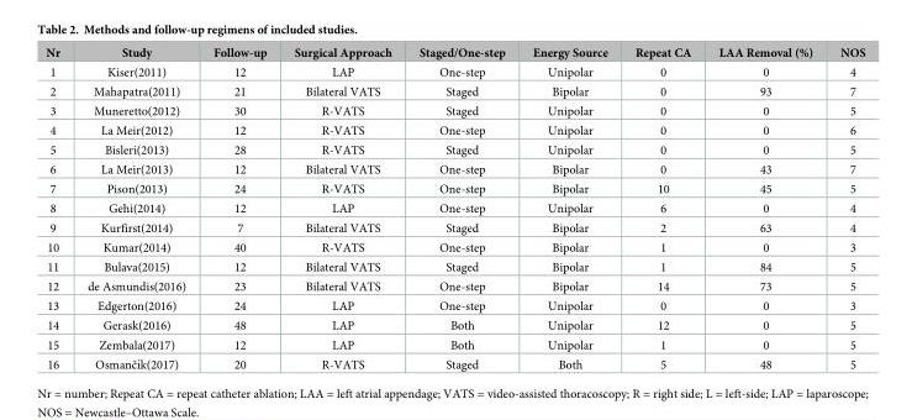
<table><thead><tr><td>Nr</td><td>Study</td><td>Follow-up</td><td>Surgical Approach</td><td>Staged/One-step</td><td>Energy Source</td><td>Repeat CA</td><td>LAA Removal (%)</td><td>NOS</td></tr></thead><tbody><tr><td>1</td><td>Kiser(2011)</td><td>12</td><td>LAP</td><td>One-step</td><td>Unipolar</td><td>0</td><td>0</td><td>4</td></tr><tr><td>2</td><td>Mahapatra(2011)</td><td>21</td><td>Bilateral VATS</td><td>Staged</td><td>Bipolar</td><td>0</td><td>93</td><td>7</td></tr><tr><td>3</td><td>Muneretto(2012)</td><td>30</td><td>R-VATS</td><td>Staged</td><td>Unipolar</td><td>0</td><td>0</td><td>5</td></tr><tr><td>4</td><td>La Meir(2012)</td><td>12</td><td>R-VATS</td><td>One-step</td><td>Unipolar</td><td>0</td><td>0</td><td>6</td></tr><tr><td>5</td><td>Bisleri(2013)</td><td>28</td><td>R-VATS</td><td>Staged</td><td>Unipolar</td><td>0</td><td>0</td><td>5</td></tr><tr><td>6</td><td>La Meir(2013)</td><td>12</td><td>Bilateral VATS</td><td>One-step</td><td>Bipolar</td><td>0</td><td>43</td><td>7</td></tr><tr><td>7</td><td>Pison(2013)</td><td>24</td><td>R-VATS</td><td>One-step</td><td>Bipolar</td><td>10</td><td>45</td><td>5</td></tr><tr><td>8</td><td>Gehi(2014)</td><td>12</td><td>LAP</td><td>One-step</td><td>Unipolar</td><td>6</td><td>0</td><td>4</td></tr><tr><td>9</td><td>Kurfirst(2014)</td><td>7</td><td>Bilateral VATS</td><td>Staged</td><td>Bipolar</td><td>2</td><td>63</td><td>4</td></tr><tr><td>10</td><td>Kumar(2014)</td><td>40</td><td>R-VATS</td><td>One-step</td><td>Bipolar</td><td>1</td><td>0</td><td>3</td></tr><tr><td>11</td><td>Bulava(2015)</td><td>12</td><td>Bilateral VATS</td><td>Staged</td><td>Bipolar</td><td>1</td><td>84</td><td>5</td></tr><tr><td>12</td><td>de Asmundis(2016)</td><td>23</td><td>Bilateral VATS</td><td>One-step</td><td>Bipolar</td><td>14</td><td>73</td><td>5</td></tr><tr><td>13</td><td>Edgerton(2016)</td><td>24</td><td>LAP</td><td>One-step</td><td>Unipolar</td><td>0</td><td>0</td><td>3</td></tr><tr><td>14</td><td>Gerask(2016)</td><td>48</td><td>LAP</td><td>Both</td><td>Unipolar</td><td>12</td><td>0</td><td>5</td></tr><tr><td>15</td><td>Zembala(2017)</td><td>12</td><td>LAP</td><td>Both</td><td>Unipolar</td><td>1</td><td>0</td><td>5</td></tr><tr><td>16</td><td>Osmančı´k(2017)</td><td>20</td><td>R-VATS</td><td>Staged</td><td>Both</td><td>5</td><td>48</td><td>5</td></tr></tbody></table>